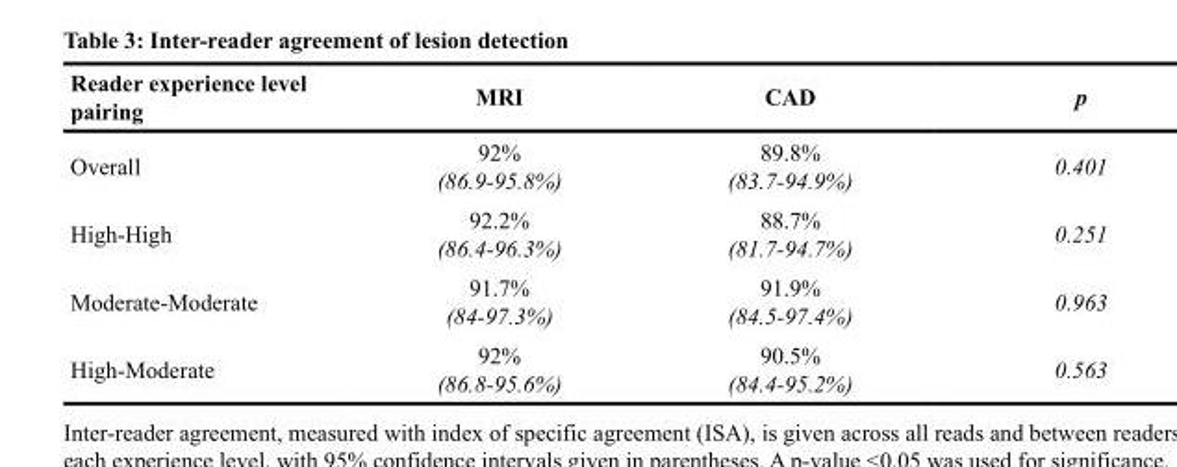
<table><thead><tr><td>Reader experience level pairing</td><td>MRI</td><td>CAD</td><td>p</td></tr></thead><tbody><tr><td>Overall</td><td>92% (86.9-95.8%)</td><td>89.8% (83.7-94.9%)</td><td>0.401</td></tr><tr><td>High-High</td><td>92.2% (86.4-96.3%)</td><td>88.7% (81.7-94.7%)</td><td>0.251</td></tr><tr><td>Moderate-Moderate</td><td>91.7% (84-97.3%)</td><td>91.9% (84.5-97.4%)</td><td>0.963</td></tr><tr><td>High-Moderate</td><td>92% (86.8-95.6%)</td><td>90.5% (84.4-95.2%)</td><td>0.563</td></tr></tbody></table>